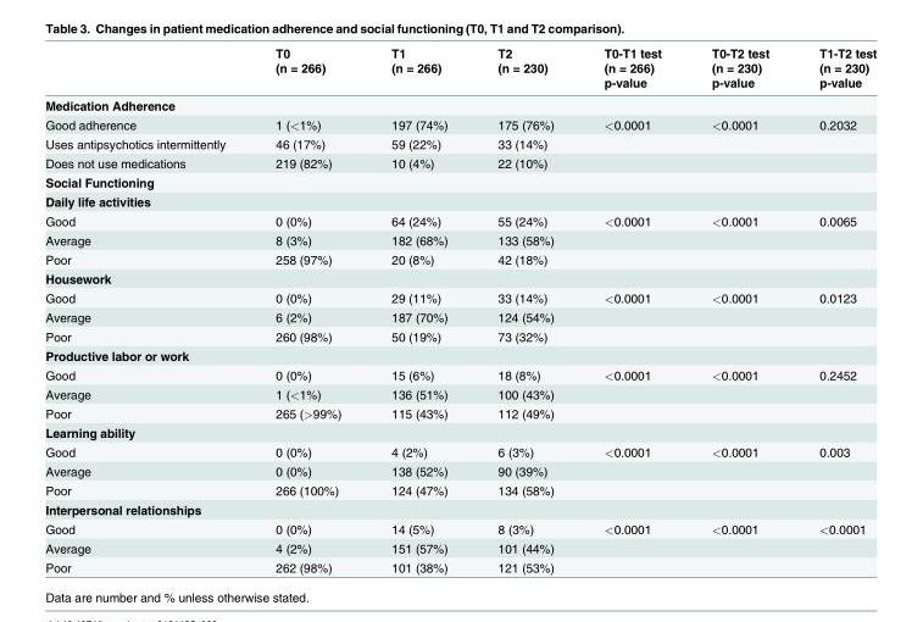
<table><thead><tr><td rowspan="3"></td><td rowspan="3">T0 (n = 266)</td><td rowspan="3">T1 (n = 266)</td><td rowspan="3">T2 (n = 230)</td><td rowspan="3">T0-T1 test (n = 266) p-value</td><td rowspan="3">T0-T2 test (n = 230) p-value</td><td rowspan="3">T1-T2 test (n = 230) p-value</td></tr><tr></tr><tr></tr></thead><tbody><tr><td colspan="7">Medication Adherence</td></tr><tr><td>Good adherence</td><td>1 (&lt;1%)</td><td>197 (74%)</td><td>175 (76%)</td><td>&lt;0.0001</td><td>&lt;0.0001</td><td>0.2032</td></tr><tr><td>Uses antipsychotics intermittently</td><td>46 (17%)</td><td>59 (22%)</td><td>33 (14%)</td><td></td><td></td><td></td></tr><tr><td>Does not use medications</td><td>219 (82%)</td><td>10 (4%)</td><td>22 (10%)</td><td></td><td></td><td></td></tr><tr><td colspan="7">Social Functioning</td></tr><tr><td colspan="7">Daily life activities</td></tr><tr><td>Good</td><td>0 (0%)</td><td>64 (24%)</td><td>55 (24%)</td><td>&lt;0.0001</td><td>&lt;0.0001</td><td>0.0065</td></tr><tr><td>Average</td><td>8 (3%)</td><td>182 (68%)</td><td>133 (58%)</td><td></td><td></td><td></td></tr><tr><td>Poor</td><td>258 (97%)</td><td>20 (8%)</td><td>42 (18%)</td><td></td><td></td><td></td></tr><tr><td colspan="7">Housework</td></tr><tr><td>Good</td><td>0 (0%)</td><td>29 (11%)</td><td>33 (14%)</td><td>&lt;0.0001</td><td>&lt;0.0001</td><td>0.0123</td></tr><tr><td>Average</td><td>6 (2%)</td><td>187 (70%)</td><td>124 (54%)</td><td></td><td></td><td></td></tr><tr><td>Poor</td><td>260 (98%)</td><td>50 (19%)</td><td>73 (32%)</td><td></td><td></td><td></td></tr><tr><td colspan="7">Productive labor or work</td></tr><tr><td>Good</td><td>0 (0%)</td><td>15 (6%)</td><td>18 (8%)</td><td>&lt;0.0001</td><td>&lt;0.0001</td><td>0.2452</td></tr><tr><td>Average</td><td>1 (&lt;1%)</td><td>136 (51%)</td><td>100 (43%)</td><td></td><td></td><td></td></tr><tr><td>Poor</td><td>265 (&gt;99%)</td><td>115 (43%)</td><td>112 (49%)</td><td></td><td></td><td></td></tr><tr><td colspan="7">Learning ability</td></tr><tr><td>Good</td><td>0 (0%)</td><td>4 (2%)</td><td>6 (3%)</td><td>&lt;0.0001</td><td>&lt;0.0001</td><td>0.003</td></tr><tr><td>Average</td><td>0 (0%)</td><td>138 (52%)</td><td>90 (39%)</td><td></td><td></td><td></td></tr><tr><td>Poor</td><td>266 (100%)</td><td>124 (47%)</td><td>134 (58%)</td><td></td><td></td><td></td></tr><tr><td colspan="7">Interpersonal relationships</td></tr><tr><td>Good</td><td>0 (0%)</td><td>14 (5%)</td><td>8 (3%)</td><td>&lt;0.0001</td><td>&lt;0.0001</td><td>&lt;0.0001</td></tr><tr><td>Average</td><td>4 (2%)</td><td>151 (57%)</td><td>101 (44%)</td><td></td><td></td><td></td></tr><tr><td>Poor</td><td>262 (98%)</td><td>101 (38%)</td><td>121 (53%)</td><td></td><td></td><td></td></tr></tbody></table>